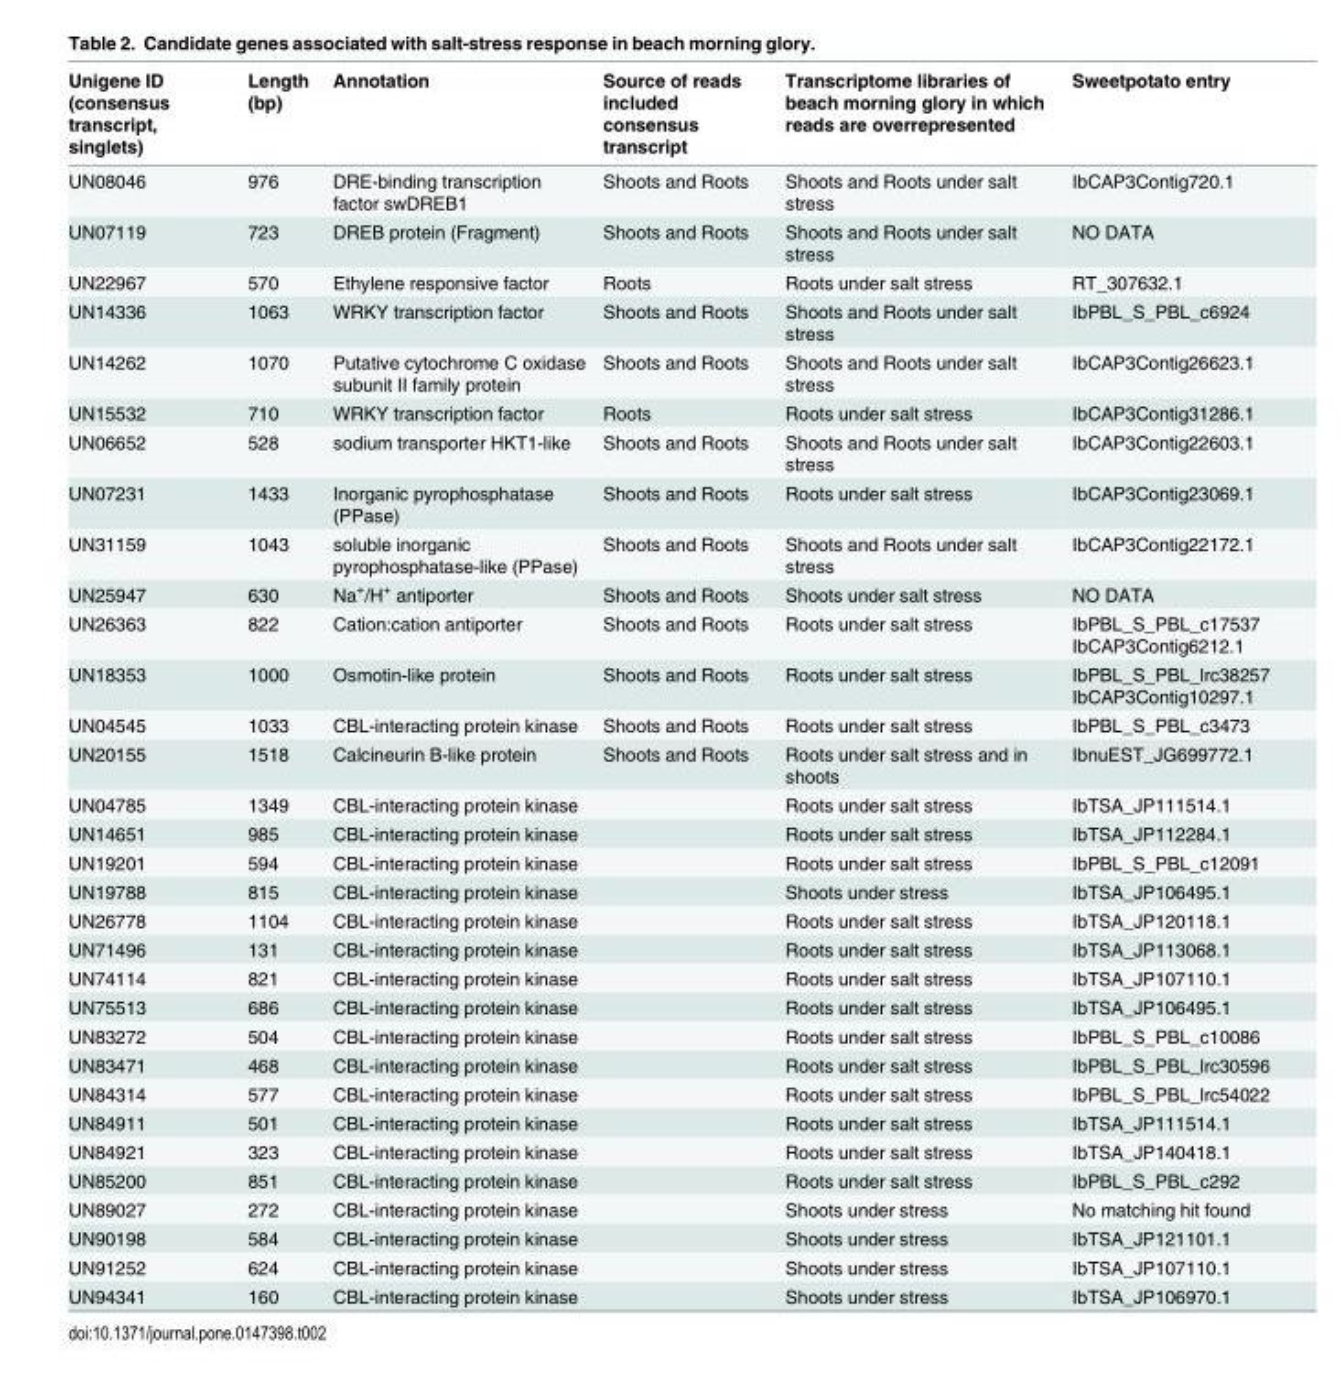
<table><thead><tr><td>Unigene ID (consensus transcript, singlets)</td><td>Length (bp)</td><td>Annotation</td><td>Source of reads included consensus transcript</td><td>Transcriptome libraries of beach morning glory in which reads are overrepresented</td><td>Sweetpotato entry</td></tr></thead><tbody><tr><td>UN08046</td><td>976</td><td>DRE-binding transcription factor swDREB1</td><td>Shoots and Roots</td><td>Shoots and Roots under salt stress</td><td>IbCAP3Contig720.1</td></tr><tr><td>UN07119</td><td>723</td><td>DREB protein (Fragment)</td><td>Shoots and Roots</td><td>Shoots and Roots under salt stress</td><td>NO DATA</td></tr><tr><td>UN22967</td><td>570</td><td>Ethylene responsive factor</td><td>Roots</td><td>Roots under salt stress</td><td>RT_307632.1</td></tr><tr><td>UN14336</td><td>1063</td><td>WRKY transcription factor</td><td>Shoots and Roots</td><td>Shoots and Roots under salt stress</td><td>IbPBL_S_PBL_c6924</td></tr><tr><td>UN14262</td><td>1070</td><td>Putative cytochrome C oxidase subunit II family protein</td><td>Shoots and Roots</td><td>Shoots and Roots under salt stress</td><td>IbCAP3Contig26623.1</td></tr><tr><td>UN15532</td><td>710</td><td>WRKY transcription factor</td><td>Roots</td><td>Roots under salt stress</td><td>IbCAP3Contig31286.1</td></tr><tr><td>UN06652</td><td>528</td><td>sodium transporter HKT1-like</td><td>Shoots and Roots</td><td>Shoots and Roots under salt stress</td><td>IbCAP3Contig22603.1</td></tr><tr><td>UN07231</td><td>1433</td><td>Inorganic pyrophosphatase (PPase)</td><td>Shoots and Roots</td><td>Roots under salt stress</td><td>IbCAP3Contig23069.1</td></tr><tr><td>UN31159</td><td>1043</td><td>soluble inorganic pyrophosphatase-like (PPase)</td><td>Shoots and Roots</td><td>Shoots and Roots under salt stress</td><td>IbCAP3Contig22172.1</td></tr><tr><td>UN25947</td><td>630</td><td>Na<sup>+</sup>/H<sup>+</sup> antiporter</td><td>Shoots and Roots</td><td>Shoots under salt stress</td><td>NO DATA</td></tr><tr><td>UN26363</td><td>822</td><td>Cation:cation antiporter</td><td>Shoots and Roots</td><td>Roots under salt stress</td><td>IbPBL_S_PBL_c17537 IbCAP3Contig6212.1</td></tr><tr><td>UN18353</td><td>1000</td><td>Osmotin-like protein</td><td>Shoots and Roots</td><td>Roots under salt stress</td><td>IbPBL_S_PBL_lrc38257 IbCAP3Contig10297.1</td></tr><tr><td>UN04545</td><td>1033</td><td>CBL-interacting protein kinase</td><td>Shoots and Roots</td><td>Roots under salt stress</td><td>IbPBL_S_PBL_c3473</td></tr><tr><td>UN20155</td><td>1518</td><td>Calcineurin B-like protein</td><td>Shoots and Roots</td><td>Roots under salt stress and in shoots</td><td>IbnuEST_JG699772.1</td></tr><tr><td>UN04785</td><td>1349</td><td>CBL-interacting protein kinase</td><td></td><td>Roots under salt stress</td><td>IbTSA_JP111514.1</td></tr><tr><td>UN14651</td><td>985</td><td>CBL-interacting protein kinase</td><td></td><td>Roots under salt stress</td><td>IbTSA_JP112284.1</td></tr><tr><td>UN19201</td><td>594</td><td>CBL-interacting protein kinase</td><td></td><td>Roots under salt stress</td><td>IbPBL_S_PBL_c12091</td></tr><tr><td>UN19788</td><td>815</td><td>CBL-interacting protein kinase</td><td></td><td>Shoots under stress</td><td>IbTSA_JP106495.1</td></tr><tr><td>UN26778</td><td>1104</td><td>CBL-interacting protein kinase</td><td></td><td>Roots under salt stress</td><td>IbTSA_JP120118.1</td></tr><tr><td>UN71496</td><td>131</td><td>CBL-interacting protein kinase</td><td></td><td>Roots under salt stress</td><td>IbTSA_JP113068.1</td></tr><tr><td>UN74114</td><td>821</td><td>CBL-interacting protein kinase</td><td></td><td>Roots under salt stress</td><td>IbTSA_JP107110.1</td></tr><tr><td>UN75513</td><td>686</td><td>CBL-interacting protein kinase</td><td></td><td>Roots under salt stress</td><td>IbTSA_JP106495.1</td></tr><tr><td>UN83272</td><td>504</td><td>CBL-interacting protein kinase</td><td></td><td>Roots under salt stress</td><td>IbPBL_S_PBL_c10086</td></tr><tr><td>UN83471</td><td>468</td><td>CBL-interacting protein kinase</td><td></td><td>Roots under salt stress</td><td>IbPBL_S_PBL_lrc30596</td></tr><tr><td>UN84314</td><td>577</td><td>CBL-interacting protein kinase</td><td></td><td>Roots under salt stress</td><td>IbPBL_S_PBL_lrc54022</td></tr><tr><td>UN84911</td><td>501</td><td>CBL-interacting protein kinase</td><td></td><td>Roots under salt stress</td><td>IbTSA_JP111514.1</td></tr><tr><td>UN84921</td><td>323</td><td>CBL-interacting protein kinase</td><td></td><td>Roots under salt stress</td><td>IbTSA_JP140418.1</td></tr><tr><td>UN85200</td><td>851</td><td>CBL-interacting protein kinase</td><td></td><td>Roots under salt stress</td><td>IbPBL_S_PBL_c292</td></tr><tr><td>UN89027</td><td>272</td><td>CBL-interacting protein kinase</td><td></td><td>Shoots under stress</td><td>No matching hit found</td></tr><tr><td>UN90198</td><td>584</td><td>CBL-interacting protein kinase</td><td></td><td>Shoots under stress</td><td>IbTSA_JP121101.1</td></tr><tr><td>UN91252</td><td>624</td><td>CBL-interacting protein kinase</td><td></td><td>Shoots under stress</td><td>IbTSA_JP107110.1</td></tr><tr><td>UN94341</td><td>160</td><td>CBL-interacting protein kinase</td><td></td><td>Shoots under stress</td><td>IbTSA_JP106970.1</td></tr></tbody></table>